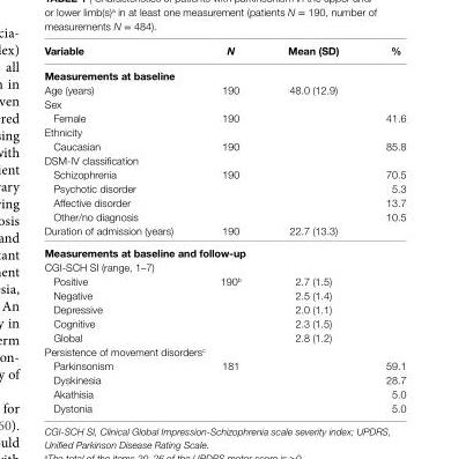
<table><thead><tr><td>Variable</td><td>N</td><td>Mean (sD)</td><td>%</td></tr></thead><tbody><tr><td colspan="4">Measurements at baseline</td></tr><tr><td>Age (years)</td><td>190</td><td>48.0 (12.9)</td><td></td></tr><tr><td colspan="4">Sex</td></tr><tr><td>Female</td><td>190</td><td></td><td>41.6</td></tr><tr><td colspan="4">Ethnicity</td></tr><tr><td>Caucasian</td><td>190</td><td></td><td>85.8</td></tr><tr><td colspan="4">DSM-IV classification</td></tr><tr><td>Schizophrenia</td><td>190</td><td></td><td>70.5</td></tr><tr><td>Psychotic disorder</td><td></td><td></td><td>5.3</td></tr><tr><td>Affective disorder</td><td></td><td></td><td>13.7</td></tr><tr><td>Other/no diagnosis</td><td></td><td></td><td>10.5</td></tr><tr><td>Duration of admission (years)</td><td>190</td><td>22.7 (13.3)</td><td></td></tr><tr><td colspan="4">Measurements at baseline and follow-up</td></tr><tr><td colspan="4">CGI-SCH SI (range, 1–7)</td></tr><tr><td>Positive</td><td>190<sup>b</sup></td><td>2.7 (1.5)</td><td></td></tr><tr><td>Negative</td><td></td><td>2.5 (1.4)</td><td></td></tr><tr><td>Depressive</td><td></td><td>2.0 (1.1)</td><td></td></tr><tr><td>Cognitive</td><td></td><td>2.3 (1.5)</td><td></td></tr><tr><td>Global</td><td></td><td>2.8 (1.2)</td><td></td></tr><tr><td colspan="4">Persistence of movement disorders<sup>c</sup></td></tr><tr><td>Parkinsonism</td><td>181</td><td></td><td>59.1</td></tr><tr><td>Dyskinesia</td><td></td><td></td><td>28.7</td></tr><tr><td>Akathisia</td><td></td><td></td><td>5.0</td></tr><tr><td>Dystonia</td><td></td><td></td><td>5.0</td></tr></tbody></table>